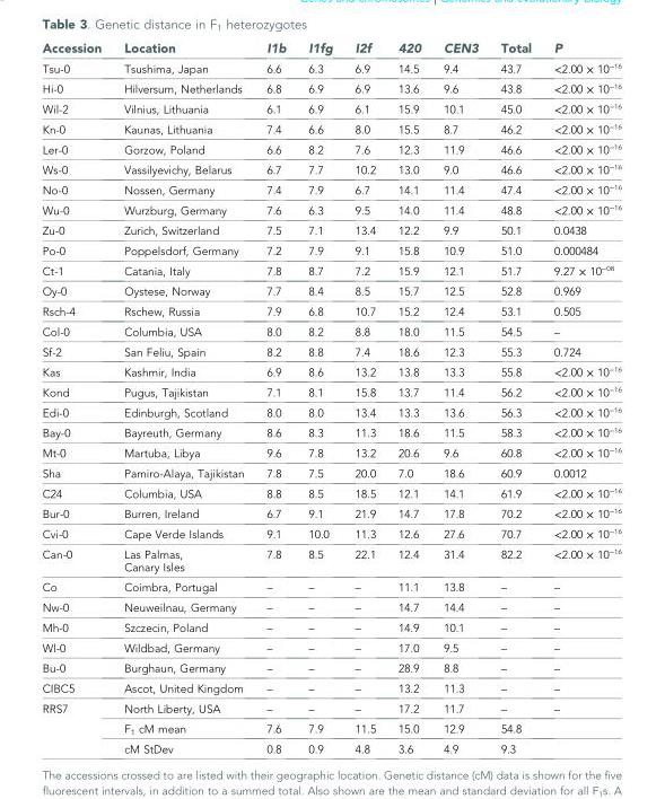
<table><thead><tr><td>Accession</td><td>Location</td><td>I1b</td><td>I1fg</td><td>I2f</td><td>420</td><td>CEN3</td><td>Total</td><td>P</td></tr></thead><tbody><tr><td>Tsu-0</td><td>Tsushima, Japan</td><td>6.6</td><td>6.3</td><td>6.9</td><td>14.5</td><td>9.4</td><td>43.7</td><td>&lt;2.00 × 10<sup>−16</sup></td></tr><tr><td>Hi-0</td><td>Hilversum, Netherlands</td><td>6.8</td><td>6.9</td><td>6.9</td><td>13.6</td><td>9.6</td><td>43.8</td><td>&lt;2.00 × 10<sup>−16</sup></td></tr><tr><td>Wil-2</td><td>Vilnius, Lithuania</td><td>6.1</td><td>6.9</td><td>6.1</td><td>15.9</td><td>10.1</td><td>45.0</td><td>&lt;2.00 × 10<sup>−16</sup></td></tr><tr><td>Kn-0</td><td>Kaunas, Lithuania</td><td>7.4</td><td>6.6</td><td>8.0</td><td>15.5</td><td>8.7</td><td>46.2</td><td>&lt;2.00 × 10<sup>−16</sup></td></tr><tr><td>Ler-0</td><td>Gorzow, Poland</td><td>6.6</td><td>8.2</td><td>7.6</td><td>12.3</td><td>11.9</td><td>46.6</td><td>&lt;2.00 × 10<sup>−16</sup></td></tr><tr><td>Ws-0</td><td>Vassilyevichy, Belarus</td><td>6.7</td><td>7.7</td><td>10.2</td><td>13.0</td><td>9.0</td><td>46.6</td><td>&lt;2.00 × 10<sup>−16</sup></td></tr><tr><td>No-0</td><td>Nossen, Germany</td><td>7.4</td><td>7.9</td><td>6.7</td><td>14.1</td><td>11.4</td><td>47.4</td><td>&lt;2.00 × 10<sup>−16</sup></td></tr><tr><td>Wu-0</td><td>Wurzburg, Germany</td><td>7.6</td><td>6.3</td><td>9.5</td><td>14.0</td><td>11.4</td><td>48.8</td><td>&lt;2.00 × 10<sup>−16</sup></td></tr><tr><td>Zu-0</td><td>Zurich, Switzerland</td><td>7.5</td><td>7.1</td><td>13.4</td><td>12.2</td><td>9.9</td><td>50.1</td><td>0.0438</td></tr><tr><td>Po-0</td><td>Poppelsdorf, Germany</td><td>7.2</td><td>7.9</td><td>9.1</td><td>15.8</td><td>10.9</td><td>51.0</td><td>0.000484</td></tr><tr><td>Ct-1</td><td>Catania, Italy</td><td>7.8</td><td>8.7</td><td>7.2</td><td>15.9</td><td>12.1</td><td>51.7</td><td>9.27 × 10<sup>−08</sup></td></tr><tr><td>Oy-0</td><td>Oystese, Norway</td><td>7.7</td><td>8.4</td><td>8.5</td><td>15.7</td><td>12.5</td><td>52.8</td><td>0.969</td></tr><tr><td>Rsch-4</td><td>Rschew, Russia</td><td>7.9</td><td>6.8</td><td>10.7</td><td>15.2</td><td>12.4</td><td>53.1</td><td>0.505</td></tr><tr><td>Col-0</td><td>Columbia, USA</td><td>8.0</td><td>8.2</td><td>8.8</td><td>18.0</td><td>11.5</td><td>54.5</td><td>–</td></tr><tr><td>Sf-2</td><td>San Feliu, Spain</td><td>8.2</td><td>8.8</td><td>7.4</td><td>18.6</td><td>12.3</td><td>55.3</td><td>0.724</td></tr><tr><td>Kas</td><td>Kashmir, India</td><td>6.9</td><td>8.6</td><td>13.2</td><td>13.8</td><td>13.3</td><td>55.8</td><td>&lt;2.00 × 10<sup>−16</sup></td></tr><tr><td>Kond</td><td>Pugus, Tajikistan</td><td>7.1</td><td>8.1</td><td>15.8</td><td>13.7</td><td>11.4</td><td>56.2</td><td>&lt;2.00 × 10<sup>−16</sup></td></tr><tr><td>Edi-0</td><td>Edinburgh, Scotland</td><td>8.0</td><td>8.0</td><td>13.4</td><td>13.3</td><td>13.6</td><td>56.3</td><td>&lt;2.00 × 10<sup>−16</sup></td></tr><tr><td>Bay-0</td><td>Bayreuth, Germany</td><td>8.6</td><td>8.3</td><td>11.3</td><td>18.6</td><td>11.5</td><td>58.3</td><td>&lt;2.00 × 10<sup>−16</sup></td></tr><tr><td>Mt-0</td><td>Martuba, Libya</td><td>9.6</td><td>7.8</td><td>13.2</td><td>20.6</td><td>9.6</td><td>60.8</td><td>&lt;2.00 × 10<sup>−16</sup></td></tr><tr><td>Sha</td><td>Pamiro-Alaya, Tajikistan</td><td>7.8</td><td>7.5</td><td>20.0</td><td>7.0</td><td>18.6</td><td>60.9</td><td>0.0012</td></tr><tr><td>C24</td><td>Columbia, USA</td><td>8.8</td><td>8.5</td><td>18.5</td><td>12.1</td><td>14.1</td><td>61.9</td><td>&lt;2.00 × 10<sup>−16</sup></td></tr><tr><td>Bur-0</td><td>Burren, Ireland</td><td>6.7</td><td>9.1</td><td>21.9</td><td>14.7</td><td>17.8</td><td>70.2</td><td>&lt;2.00 × 10<sup>−16</sup></td></tr><tr><td>Cvi-0</td><td>Cape Verde Islands</td><td>9.1</td><td>10.0</td><td>11.3</td><td>12.6</td><td>27.6</td><td>70.7</td><td>&lt;2.00 × 10<sup>−16</sup></td></tr><tr><td>Can-0</td><td>Las Palmas, Canary Isles</td><td>7.8</td><td>8.5</td><td>22.1</td><td>12.4</td><td>31.4</td><td>82.2</td><td>&lt;2.00 × 10<sup>−16</sup></td></tr><tr><td>Co</td><td>Coimbra, Portugal</td><td>–</td><td>–</td><td>–</td><td>11.1</td><td>13.8</td><td>–</td><td>–</td></tr><tr><td>Nw-0</td><td>Neuweilnau, Germany</td><td>–</td><td>–</td><td>–</td><td>14.7</td><td>14.4</td><td>–</td><td>–</td></tr><tr><td>Mh-0</td><td>Szczecin, Poland</td><td>–</td><td>–</td><td>–</td><td>14.9</td><td>10.1</td><td>–</td><td>–</td></tr><tr><td>Wl-0</td><td>Wildbad, Germany</td><td>–</td><td>–</td><td>–</td><td>17.0</td><td>9.5</td><td>–</td><td>–</td></tr><tr><td>Bu-0</td><td>Burghaun, Germany</td><td>–</td><td>–</td><td>–</td><td>28.9</td><td>8.8</td><td>–</td><td>–</td></tr><tr><td>CIBC5</td><td>Ascot, United Kingdom</td><td>–</td><td>–</td><td>–</td><td>13.2</td><td>11.3</td><td>–</td><td>–</td></tr><tr><td rowspan="3">RRS7</td><td>North Liberty, USA</td><td>–</td><td>–</td><td>–</td><td>17.2</td><td>11.7</td><td>–</td><td>–</td></tr><tr><td>F<sub>1</sub> cM mean</td><td>7.6</td><td>7.9</td><td>11.5</td><td>15.0</td><td>12.9</td><td>54.8</td><td></td></tr><tr><td>cM StDev</td><td>0.8</td><td>0.9</td><td>4.8</td><td>3.6</td><td>4.9</td><td>9.3</td><td></td></tr></tbody></table>